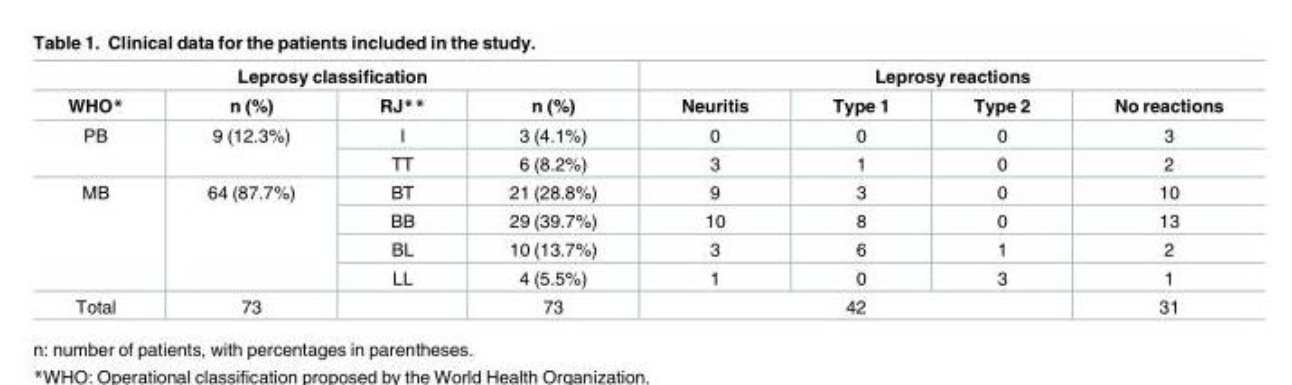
<table><thead><tr><td colspan="4">Leprosy classification</td><td colspan="4">Leprosy reactions</td></tr><tr><td>WHO*</td><td>n (%)</td><td>RJ**</td><td>n (%)</td><td>Neuritis</td><td>Type 1</td><td>Type 2</td><td>No reactions</td></tr></thead><tbody><tr><td rowspan="2">PB</td><td rowspan="2">9 (12.3%)</td><td>I</td><td>3 (4.1%)</td><td>0</td><td>0</td><td>0</td><td>3</td></tr><tr><td>TT</td><td>6 (8.2%)</td><td>3</td><td>1</td><td>0</td><td>2</td></tr><tr><td rowspan="4">MB</td><td rowspan="4">64 (87.7%)</td><td>BT</td><td>21 (28.8%)</td><td>9</td><td>3</td><td>0</td><td>10</td></tr><tr><td>BB</td><td>29 (39.7%)</td><td>10</td><td>8</td><td>0</td><td>13</td></tr><tr><td>BL</td><td>10 (13.7%)</td><td>3</td><td>6</td><td>1</td><td>2</td></tr><tr><td>LL</td><td>4 (5.5%)</td><td>1</td><td>0</td><td>3</td><td>1</td></tr><tr><td>Total</td><td>73</td><td></td><td>73</td><td colspan="3">42</td><td>31</td></tr></tbody></table>